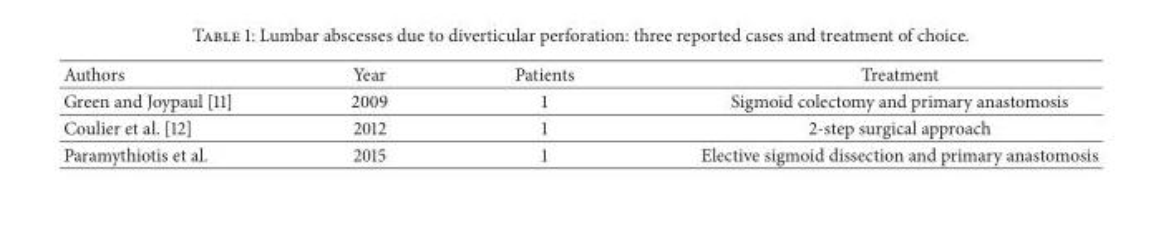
<table><thead><tr><td>Authors</td><td>Year</td><td>Patients</td><td>Treatment</td></tr></thead><tbody><tr><td>Green and Joypaul [11]</td><td>2009</td><td>1</td><td>Sigmoid colectomy and primary anastomosis</td></tr><tr><td>Coulier et al. [12]</td><td>2012</td><td>1</td><td>2-step surgical approach</td></tr><tr><td>Paramythiotis et al.</td><td>2015</td><td>1</td><td>Elective sigmoid dissection and primary anastomosis</td></tr></tbody></table>